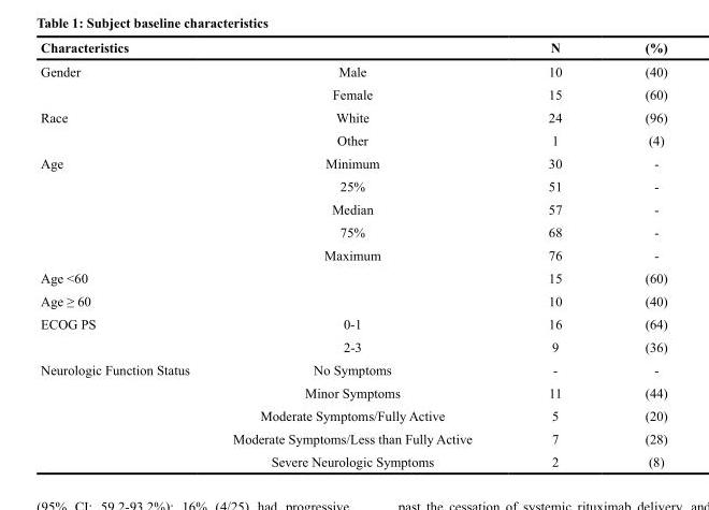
<table><thead><tr><td>Characteristics</td><td></td><td>N</td><td>(%)</td></tr></thead><tbody><tr><td rowspan="2">Gender</td><td>Male</td><td>10</td><td>(40)</td></tr><tr><td>Female</td><td>15</td><td>(60)</td></tr><tr><td rowspan="2">Race</td><td>White</td><td>24</td><td>(96)</td></tr><tr><td>Other</td><td>1</td><td>(4)</td></tr><tr><td rowspan="5">Age</td><td>Minimum</td><td>30</td><td>-</td></tr><tr><td>25%</td><td>51</td><td>-</td></tr><tr><td>Median</td><td>57</td><td>-</td></tr><tr><td>75%</td><td>68</td><td>-</td></tr><tr><td>Maximum</td><td>76</td><td>-</td></tr><tr><td>Age &lt;60</td><td></td><td>15</td><td>(60)</td></tr><tr><td>Age ≥ 60</td><td></td><td>10</td><td>(40)</td></tr><tr><td rowspan="2">ECOG PS</td><td>0-1</td><td>16</td><td>(64)</td></tr><tr><td>2-3</td><td>9</td><td>(36)</td></tr><tr><td rowspan="5">Neurologic Function Status</td><td>No Symptoms</td><td>-</td><td>-</td></tr><tr><td>Minor Symptoms</td><td>11</td><td>(44)</td></tr><tr><td>Moderate Symptoms/Fully Active</td><td>5</td><td>(20)</td></tr><tr><td>Moderate Symptoms/Less than Fully Active</td><td>7</td><td>(28)</td></tr><tr><td>Severe Neurologic Symptoms</td><td>2</td><td>(8)</td></tr></tbody></table>